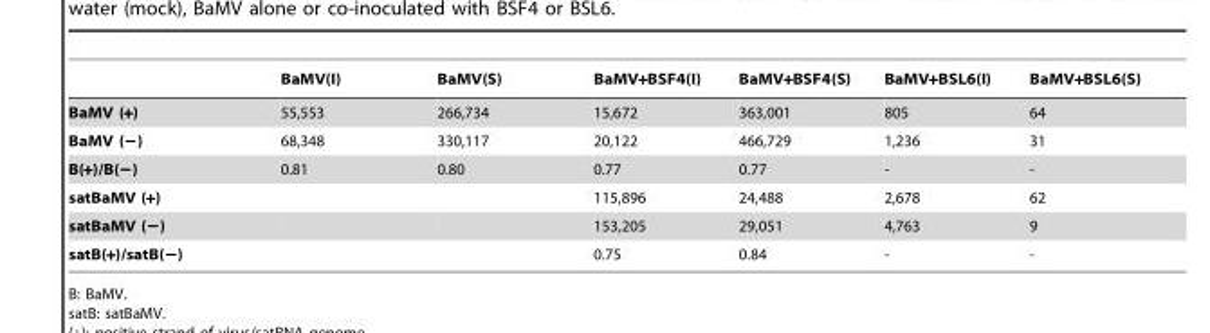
<table><thead><tr><td></td><td>BaMV(I)</td><td>BaMV(S)</td><td>BaMV+BSF4(I)</td><td>BaMV+BSF4(S)</td><td>BaMV+BSL6(I)</td><td>BaMV+BSL6(S)</td></tr></thead><tbody><tr><td>BaMV (+)</td><td>55,553</td><td>266,734</td><td>15,672</td><td>363,001</td><td>805</td><td>64</td></tr><tr><td>BaMV (−)</td><td>68,348</td><td>330,117</td><td>20,122</td><td>466,729</td><td>1,236</td><td>31</td></tr><tr><td>B(+)/B(−)</td><td>0.81</td><td>0.80</td><td>0.77</td><td>0.77</td><td>-</td><td>-</td></tr><tr><td>satBaMV (+)</td><td></td><td></td><td>115,896</td><td>24,488</td><td>2,678</td><td>62</td></tr><tr><td>satBaMV (−)</td><td></td><td></td><td>153,205</td><td>29,051</td><td>4,763</td><td>9</td></tr><tr><td>satB(+)/satB(−)</td><td></td><td></td><td>0.75</td><td>0.84</td><td>-</td><td>-</td></tr></tbody></table>